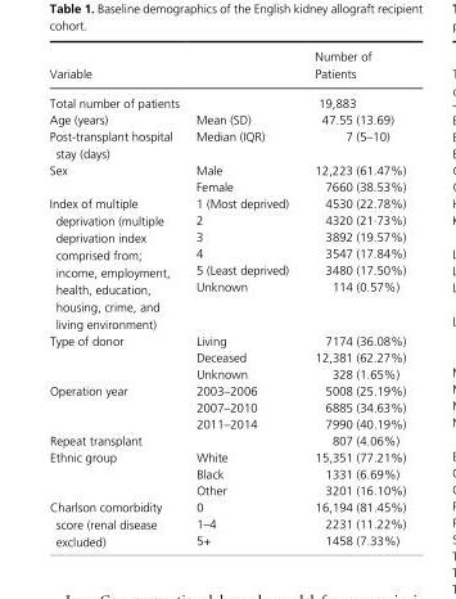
<table><thead><tr><td rowspan="2" colspan="2">Variable Total number of patients</td><td rowspan="3">Number of Patients 19,883 47.55 (13.69)</td></tr><tr></tr><tr><td>Age (years)</td><td>Mean (SD)</td></tr></thead><tbody><tr><td>Post- transplant hospital stay (days)</td><td>Median (IQR)</td><td>7 (5–10)</td></tr><tr><td rowspan="2">Sex</td><td>Male</td><td>12,223 (61.47%)</td></tr><tr><td>Female</td><td>7660 (38.53%)</td></tr><tr><td rowspan="6">Index of multiple deprivation (multiple deprivation index comprised from; income, employment, health, education, housing, crime, and living environment)</td><td>1 (Most deprived)</td><td>4530 (22.78%)</td></tr><tr><td>2</td><td>4320 (21·73%)</td></tr><tr><td>3</td><td>3892 (19.57%)</td></tr><tr><td>4</td><td>3547 (17.84%)</td></tr><tr><td>5 (Least deprived)</td><td>3480 (17.50%)</td></tr><tr><td>Unknown</td><td>114 (0.57%)</td></tr><tr><td rowspan="3">Type of donor</td><td>Living</td><td>7174 (36.08%)</td></tr><tr><td>Deceased</td><td>12,381 (62.27%)</td></tr><tr><td>Unknown</td><td>328 (1.65%)</td></tr><tr><td rowspan="3">Operation year</td><td>2003–2006</td><td>5008 (25.19%)</td></tr><tr><td>2007–2010</td><td>6885 (34.63%)</td></tr><tr><td>2011–2014</td><td>7990 (40.19%)</td></tr><tr><td colspan="2">Repeat transplant</td><td>807 (4.06%)</td></tr><tr><td rowspan="3">Ethnic group</td><td>White</td><td>15,351 (77.21%)</td></tr><tr><td>Black</td><td>1331 (6.69%)</td></tr><tr><td>Other</td><td>3201 (16.10%)</td></tr><tr><td rowspan="3">Charlson comorbidity score (renal disease excluded)</td><td>0</td><td>16,194 (81.45%)</td></tr><tr><td>1–4</td><td>2231 (11.22%)</td></tr><tr><td>5+</td><td>1458 (7.33%)</td></tr></tbody></table>